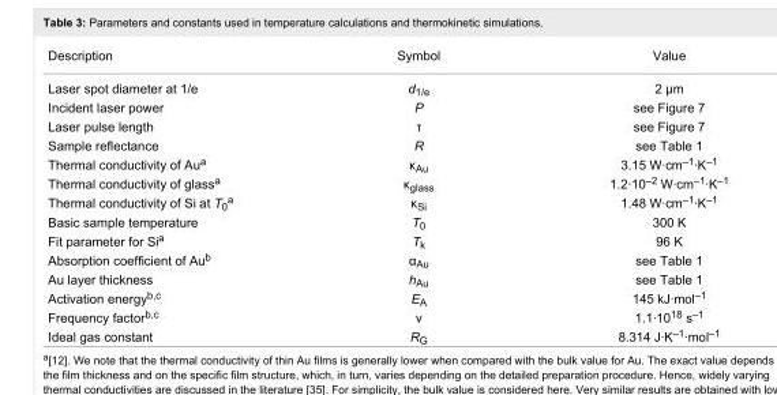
<table><tbody><tr><td>Description</td><td>Symbol</td><td>Value</td></tr><tr><td>Laser spot diameter at 1/e</td><td>d<sub>1/e</sub></td><td>2 µm</td></tr><tr><td>Incident laser power</td><td>P</td><td>see Figure 7</td></tr><tr><td>Laser pulse length</td><td>τ</td><td>see Figure 7</td></tr><tr><td>Sample reflectance</td><td>R</td><td>see Table 1</td></tr><tr><td>Thermal conductivity of Au<sup>a</sup></td><td>κ<sub>Au</sub></td><td>3.15 W·cm<sup>–1</sup>·K<sup>–1</sup></td></tr><tr><td>Thermal conductivity of glass<sup>a</sup></td><td>κ<sub>glass</sub></td><td>1.2·10<sup>–2</sup> W·cm<sup>–1</sup>·K<sup>–1</sup></td></tr><tr><td>Thermal conductivity of Si at T<sub>0</sub><sup>a</sup></td><td>κ<sub>Si</sub></td><td>1.48 W·cm<sup>–1</sup>·K<sup>–1</sup></td></tr><tr><td>Basic sample temperature</td><td>T<sub>0</sub></td><td>300 K</td></tr><tr><td>Fit parameter for Si<sup>a</sup></td><td>T<sub>k</sub></td><td>96 K</td></tr><tr><td>Absorption coefficient of Au<sup>b</sup></td><td>α<sub>Au</sub></td><td>see Table 1</td></tr><tr><td>Au layer thickness</td><td>h<sub>Au</sub></td><td>see Table 1</td></tr><tr><td>Activation energy<sup>b,c</sup></td><td>E<sub>A</sub></td><td>145 kJ·mol<sup>–1</sup></td></tr><tr><td>Frequency factor<sup>b,c</sup></td><td>ν</td><td>1.1·10<sup>18</sup> s<sup>–1</sup></td></tr><tr><td>Ideal gas constant</td><td>R<sub>G</sub></td><td>8.314 J·K<sup>–1</sup>·mol<sup>–1</sup></td></tr></tbody></table>